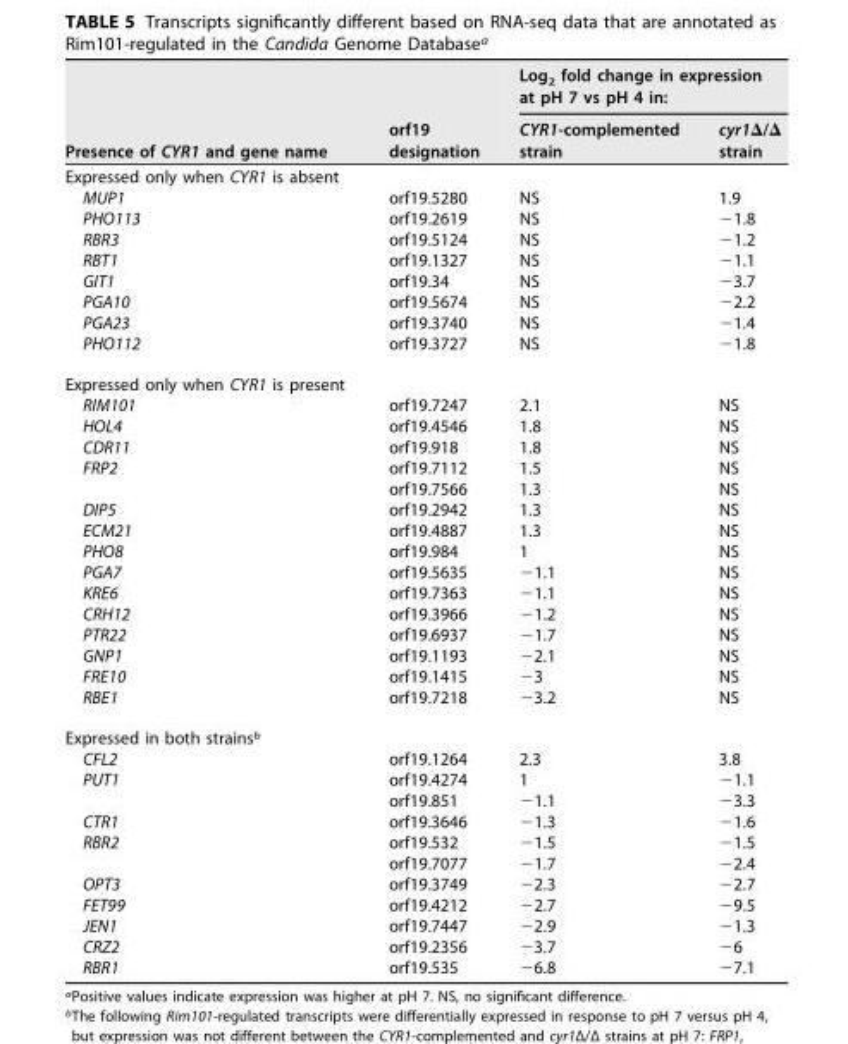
<table><thead><tr><td rowspan="2">Presence of CYR1 and gene name</td><td rowspan="2">orf19 designation</td><td colspan="2">Log<sub>2</sub> fold change in expression at pH 7 vs pH 4 in:</td></tr><tr><td>CYR1-complemented strain</td><td>cyr1Δ/Δ strain</td></tr></thead><tbody><tr><td colspan="4">Expressed only when CYR1 is absent</td></tr><tr><td>MUP1</td><td>orf19.5280</td><td>NS</td><td>1.9</td></tr><tr><td>PHO113</td><td>orf19.2619</td><td>NS</td><td>−1.8</td></tr><tr><td>RBR3</td><td>orf19.5124</td><td>NS</td><td>−1.2</td></tr><tr><td>RBT1</td><td>orf19.1327</td><td>NS</td><td>−1.1</td></tr><tr><td>GIT1</td><td>orf19.34</td><td>NS</td><td>−3.7</td></tr><tr><td>PGA10</td><td>orf19.5674</td><td>NS</td><td>−2.2</td></tr><tr><td>PGA23</td><td>orf19.3740</td><td>NS</td><td>−1.4</td></tr><tr><td>PHO112</td><td>orf19.3727</td><td>NS</td><td>−1.8</td></tr><tr><td colspan="4">Expressed only when CYR1 is present</td></tr><tr><td>RIM101</td><td>orf19.7247</td><td>2.1</td><td>NS</td></tr><tr><td>HOL4</td><td>orf19.4546</td><td>1.8</td><td>NS</td></tr><tr><td>CDR11</td><td>orf19.918</td><td>1.8</td><td>NS</td></tr><tr><td rowspan="2">FRP2</td><td>orf19.7112</td><td>1.5</td><td>NS</td></tr><tr><td>orf19.7566</td><td>1.3</td><td>NS</td></tr><tr><td>DIP5</td><td>orf19.2942</td><td>1.3</td><td>NS</td></tr><tr><td>ECM21</td><td>orf19.4887</td><td>1.3</td><td>NS</td></tr><tr><td>PHO8</td><td>orf19.984</td><td>1</td><td>NS</td></tr><tr><td>PGA7</td><td>orf19.5635</td><td>−1.1</td><td>NS</td></tr><tr><td>KRE6</td><td>orf19.7363</td><td>−1.1</td><td>NS</td></tr><tr><td>CRH12</td><td>orf19.3966</td><td>−1.2</td><td>NS</td></tr><tr><td>PTR22</td><td>orf19.6937</td><td>−1.7</td><td>NS</td></tr><tr><td>GNP1</td><td>orf19.1193</td><td>−2.1</td><td>NS</td></tr><tr><td>FRE10</td><td>orf19.1415</td><td>−3</td><td>NS</td></tr><tr><td>RBE1</td><td>orf19.7218</td><td>−3.2</td><td>NS</td></tr><tr><td colspan="4">Expressed in both strainsb</td></tr><tr><td>CFL2</td><td>orf19.1264</td><td>2.3</td><td>3.8</td></tr><tr><td rowspan="2">PUT1</td><td>orf19.4274</td><td>1</td><td>−1.1</td></tr><tr><td>orf19.851</td><td>−1.1</td><td>−3.3</td></tr><tr><td>CTR1</td><td>orf19.3646</td><td>−1.3</td><td>−1.6</td></tr><tr><td rowspan="2">RBR2</td><td>orf19.532</td><td>−1.5</td><td>−1.5</td></tr><tr><td>orf19.7077</td><td>−1.7</td><td>−2.4</td></tr><tr><td>OPT3</td><td>orf19.3749</td><td>−2.3</td><td>−2.7</td></tr><tr><td>FET99</td><td>orf19.4212</td><td>−2.7</td><td>−9.5</td></tr><tr><td>JEN1</td><td>orf19.7447</td><td>−2.9</td><td>−1.3</td></tr><tr><td>CRZ2</td><td>orf19.2356</td><td>−3.7</td><td>−6</td></tr><tr><td>RBR1</td><td>orf19.535</td><td>−6.8</td><td>−7.1</td></tr></tbody></table>